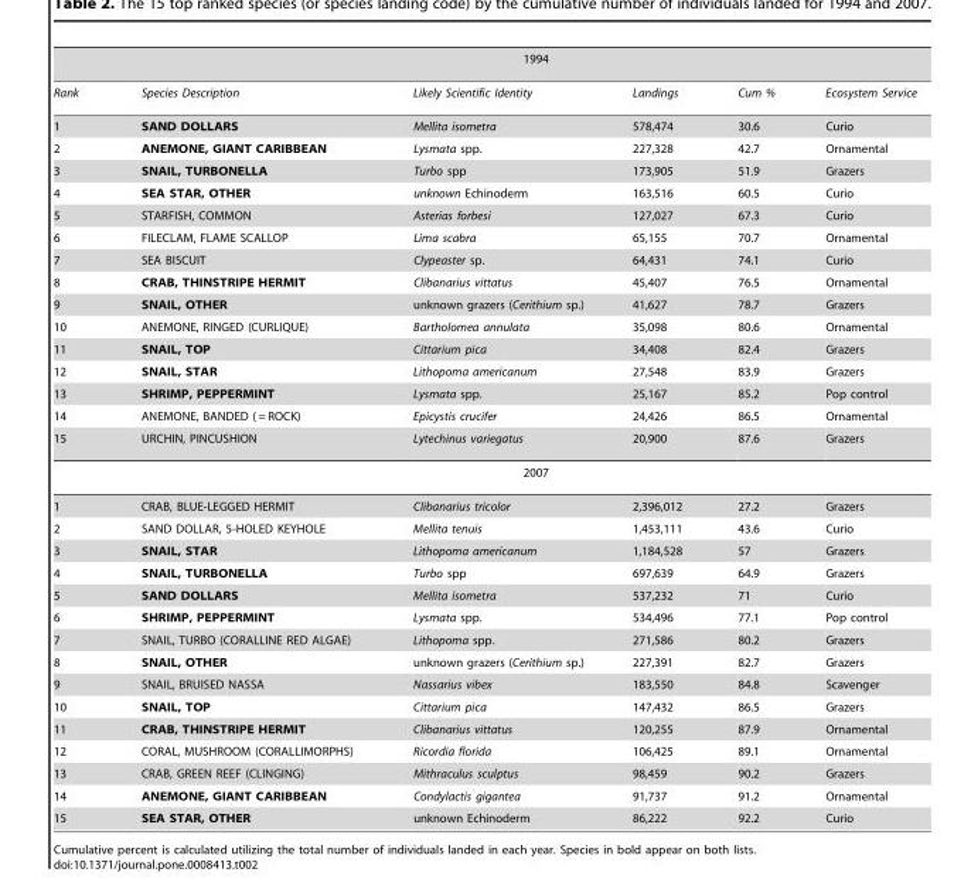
<table><thead><tr><td rowspan="2">Rank</td><td colspan="5">1994</td></tr><tr><td>Species Description</td><td>Likely Scientific Identity</td><td>Landings</td><td>Cum %</td><td>Ecosystem Service</td></tr></thead><tbody><tr><td>1</td><td>SAND DOLLARS</td><td>Mellita isometra</td><td>578,474</td><td>30.6</td><td>Curio</td></tr><tr><td>2</td><td>ANEMONE, GIANT CARIBBEAN</td><td>Lysmata spp.</td><td>227,328</td><td>42.7</td><td>Ornamental</td></tr><tr><td>3</td><td>SNAIL, TURBONELLA</td><td>Turbo spp</td><td>173,905</td><td>51.9</td><td>Grazers</td></tr><tr><td>4</td><td>SEA STAR, OTHER</td><td>unknown Echinoderm</td><td>163,516</td><td>60.5</td><td>Curio</td></tr><tr><td>5</td><td>STARFISH, COMMON</td><td>Asterias forbesi</td><td>127,027</td><td>67.3</td><td>Curio</td></tr><tr><td>6</td><td>FILECLAM, FLAME SCALLOP</td><td>Lima scabra</td><td>65,155</td><td>70.7</td><td>Ornamental</td></tr><tr><td>7</td><td>SEA BISCUIT</td><td>Clypeaster sp.</td><td>64,431</td><td>74.1</td><td>Curio</td></tr><tr><td>8</td><td>CRAB, THINSTRIPE HERMIT</td><td>Clibanarius vittatus</td><td>45,407</td><td>76.5</td><td>Ornamental</td></tr><tr><td>9</td><td>SNAIL, OTHER</td><td>unknown grazers (Cerithium sp.)</td><td>41,627</td><td>78.7</td><td>Grazers</td></tr><tr><td>10</td><td>ANEMONE, RINGED (CURLIQUE)</td><td>Bartholomea annulata</td><td>35,098</td><td>80.6</td><td>Ornamental</td></tr><tr><td>11</td><td>SNAIL, TOP</td><td>Cittarium pica</td><td>34,408</td><td>82.4</td><td>Grazers</td></tr><tr><td>12</td><td>SNAIL, STAR</td><td>Lithopoma americanum</td><td>27,548</td><td>83.9</td><td>Grazers</td></tr><tr><td>13</td><td>SHRIMP, PEPPERMINT</td><td>Lysmata spp.</td><td>25,167</td><td>85.2</td><td>Pop control</td></tr><tr><td>14</td><td>ANEMONE, BANDED ( = ROCK)</td><td>Epicystis crucifer</td><td>24,426</td><td>86.5</td><td>Ornamental</td></tr><tr><td rowspan="2">15</td><td>URCHIN, PINCUSHION</td><td>Lytechinus variegatus</td><td>20,900</td><td>87.6</td><td>Grazers</td></tr><tr><td colspan="5">2007</td></tr><tr><td>1</td><td>CRAB, BLUE-LEGGED HERMIT</td><td>Clibanarius tricolor</td><td>2,396,012</td><td>27.2</td><td>Grazers</td></tr><tr><td>2</td><td>SAND DOLLAR, 5-HOLED KEYHOLE</td><td>Mellita tenuis</td><td>1,453,111</td><td>43.6</td><td>Curio</td></tr><tr><td>3</td><td>SNAIL, STAR</td><td>Lithopoma americanum</td><td>1,184,528</td><td>57</td><td>Grazers</td></tr><tr><td>4</td><td>SNAIL, TURBONELLA</td><td>Turbo spp</td><td>697,639</td><td>64.9</td><td>Grazers</td></tr><tr><td>5</td><td>SAND DOLLARS</td><td>Mellita isometra</td><td>537,232</td><td>71</td><td>Curio</td></tr><tr><td>6</td><td>SHRIMP, PEPPERMINT</td><td>Lysmata spp.</td><td>534,496</td><td>77.1</td><td>Pop control</td></tr><tr><td>7</td><td>SNAIL, TURBO (CORALLINE RED ALGAE)</td><td>Lithopoma spp.</td><td>271,586</td><td>80.2</td><td>Grazers</td></tr><tr><td>8</td><td>SNAIL, OTHER</td><td>unknown grazers (Cerithium sp.)</td><td>227,391</td><td>82.7</td><td>Grazers</td></tr><tr><td>9</td><td>SNAIL, BRUISED NASSA</td><td>Nassarius vibex</td><td>183,550</td><td>84.8</td><td>Scavenger</td></tr><tr><td>10</td><td>SNAIL, TOP</td><td>Cittarium pica</td><td>147,432</td><td>86.5</td><td>Grazers</td></tr><tr><td>11</td><td>CRAB, THINSTRIPE HERMIT</td><td>Clibanarius vittatus</td><td>120,255</td><td>87.9</td><td>Ornamental</td></tr><tr><td>12</td><td>CORAL, MUSHROOM (CORALLIMORPHS)</td><td>Ricordia florida</td><td>106,425</td><td>89.1</td><td>Ornamental</td></tr><tr><td>13</td><td>CRAB, GREEN REEF (CLINGING)</td><td>Mithraculus sculptus</td><td>98,459</td><td>90.2</td><td>Grazers</td></tr><tr><td>14</td><td>ANEMONE, GIANT CARIBBEAN</td><td>Condylactis gigantea</td><td>91,737</td><td>91.2</td><td>Ornamental</td></tr><tr><td>15</td><td>SEA STAR, OTHER</td><td>unknown Echinoderm</td><td>86,222</td><td>92.2</td><td>Curio</td></tr></tbody></table>